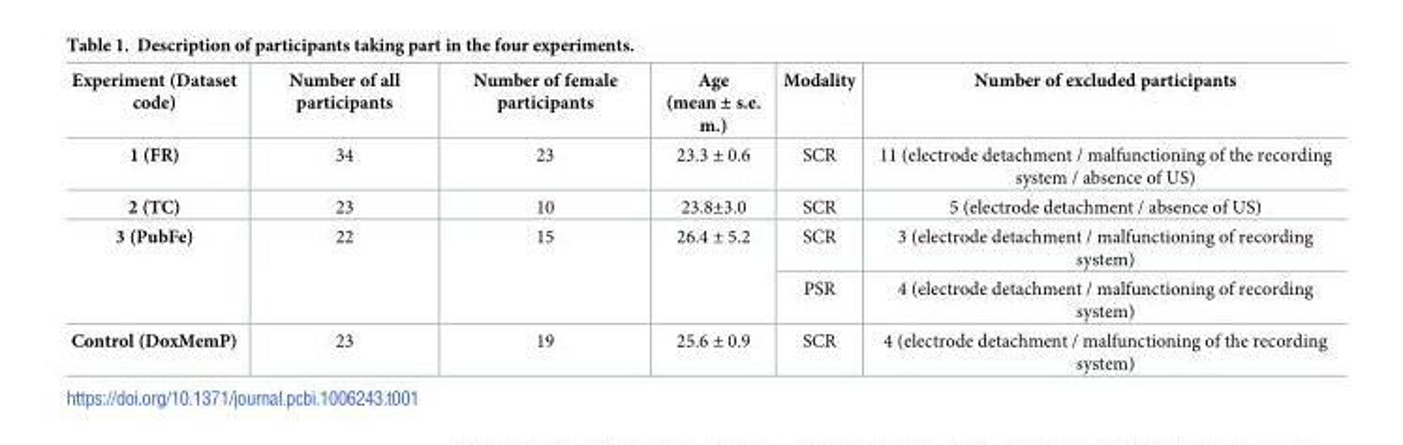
<table><thead><tr><td>Experiment (Dataset code)</td><td>Number of all participants</td><td>Number of female participants</td><td>Age (mean ± s.e. m.)</td><td>Modality</td><td>Number of excluded participants</td></tr></thead><tbody><tr><td>1 (FR)</td><td>34</td><td>23</td><td>23.3 ± 0.6</td><td>SCR</td><td>11 (electrode detachment / malfunctioning of the recording system / absence of US)</td></tr><tr><td>2 (TC)</td><td>23</td><td>10</td><td>23.8±3.0</td><td>SCR</td><td>5 (electrode detachment / absence of US)</td></tr><tr><td rowspan="2">3 (PubFe)</td><td rowspan="2">22</td><td rowspan="2">15</td><td rowspan="2">26.4 ± 5.2</td><td>SCR</td><td>3 (electrode detachment / malfunctioning of recording system)</td></tr><tr><td>PSR</td><td>4 (electrode detachment / malfunctioning of recording system)</td></tr><tr><td>Control (DoxMemP)</td><td>23</td><td>19</td><td>25.6 ± 0.9</td><td>SCR</td><td>4 (electrode detachment / malfunctioning of the recording system)</td></tr></tbody></table>